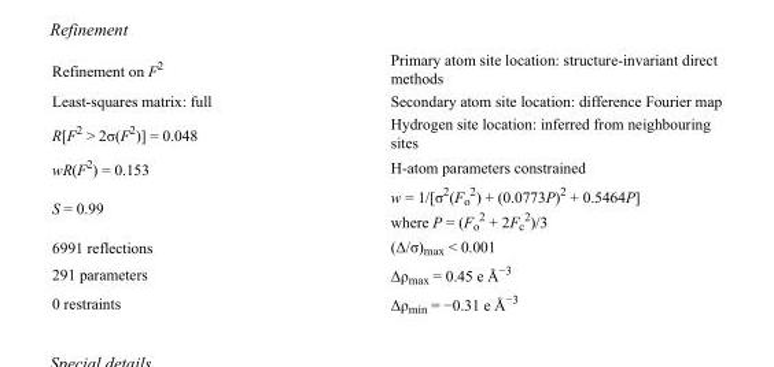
<table><tbody><tr><td>Refinement on F<sup>2</sup></td><td>Primary atom site location: structure-invariant direct methods</td></tr><tr><td>Least-squares matrix: full</td><td>Secondary atom site location: difference Fourier map</td></tr><tr><td>R[F<sup>2</sup> &gt; 2σ(F<sup>2</sup>)] = 0.048</td><td>Hydrogen site location: inferred from neighbouring sites</td></tr><tr><td>wR(F<sup>2</sup>) = 0.153</td><td>H-atom parameters constrained</td></tr><tr><td>S = 0.99</td><td>w = 1/[σ<sup>2</sup>(F<sub>o</sub> <sup>2</sup>) + (0.0773P)<sup>2</sup> + 0.5464P] where P = (F<sub>o</sub> <sup>2</sup> + 2F<sub>c</sub> <sup>2</sup>)/3</td></tr><tr><td>6991 reflections</td><td>(Δ/σ)<sub>max</sub> &lt; 0.001</td></tr><tr><td>291 parameters</td><td>Δρ<sub>max</sub> = 0.45 e Å<sup>−3</sup></td></tr><tr><td>0 restraints</td><td>Δρ<sub>min</sub> = −0.31 e Å<sup>−3</sup></td></tr></tbody></table>